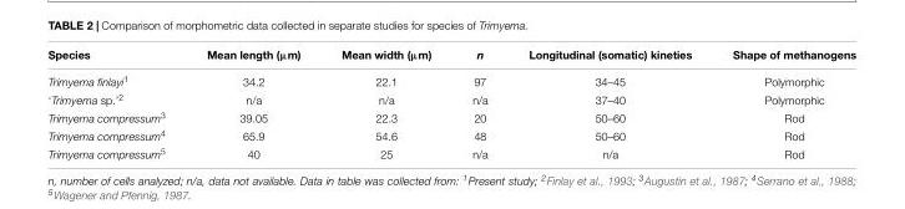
<table><thead><tr><td>Species</td><td>Mean length (µm)</td><td>Mean width (µm)</td><td>n</td><td>Longitudinal (somatic) kineties</td><td>Shape of methanogens</td></tr></thead><tbody><tr><td>Trimyema finlayi<sup>1</sup></td><td>34.2</td><td>22.1</td><td>97</td><td>34–45</td><td>Polymorphic</td></tr><tr><td>‘Trimyema sp.’<sup>2</sup></td><td>n/a</td><td>n/a</td><td>n/a</td><td>37–40</td><td>Polymorphic</td></tr><tr><td>Trimyema compressum<sup>3</sup></td><td>39.05</td><td>22.3</td><td>20</td><td>50–60</td><td>Rod</td></tr><tr><td>Trimyema compressum<sup>4</sup></td><td>65.9</td><td>54.6</td><td>48</td><td>50–60</td><td>Rod</td></tr><tr><td>Trimyema compressum<sup>5</sup></td><td>40</td><td>25</td><td>n/a</td><td>n/a</td><td>Rod</td></tr></tbody></table>